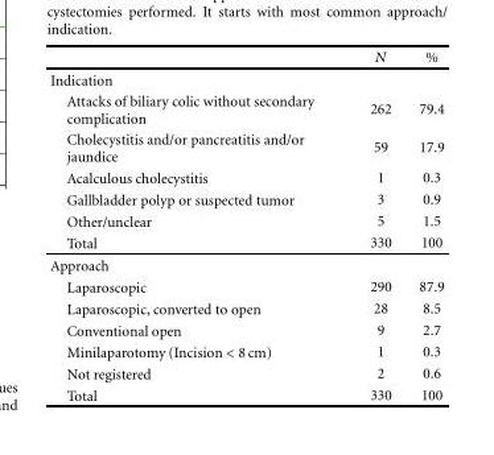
<table><thead><tr><td></td><td>N</td><td>%</td></tr></thead><tbody><tr><td colspan="3">Indication</td></tr><tr><td>Attacks of biliary colic without secondary complication</td><td>262</td><td>79.4</td></tr><tr><td>Cholecystitis and/or pancreatitis and/or jaundice</td><td>59</td><td>17.9</td></tr><tr><td>Acalculous cholecystitis</td><td>1</td><td>0.3</td></tr><tr><td>Gallbladder polyp or suspected tumor</td><td>3</td><td>0.9</td></tr><tr><td>Other/unclear</td><td>5</td><td>1.5</td></tr><tr><td>Total</td><td>330</td><td>100</td></tr><tr><td colspan="3">Approach</td></tr><tr><td>Laparoscopic</td><td>290</td><td>87.9</td></tr><tr><td>Laparoscopic, converted to open</td><td>28</td><td>8.5</td></tr><tr><td>Conventional open</td><td>9</td><td>2.7</td></tr><tr><td>Minilaparotomy (Incision &lt; 8 cm)</td><td>1</td><td>0.3</td></tr><tr><td>Not registered</td><td>2</td><td>0.6</td></tr><tr><td>Total</td><td>330</td><td>100</td></tr></tbody></table>